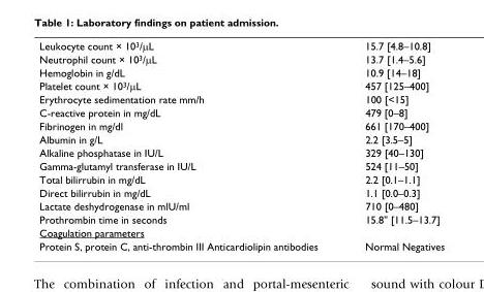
<table><tbody><tr><td>Leukocyte count × 10<sup>3</sup>/μL</td><td>15.7 [4.8–10.8]</td></tr><tr><td>Neutrophil count × 10<sup>3</sup>/μL</td><td>13.7 [1.4–5.6]</td></tr><tr><td>Hemoglobin in g/dL</td><td>10.9 [14–18]</td></tr><tr><td>Platelet count × 10<sup>3</sup>/μL</td><td>457 [125–400]</td></tr><tr><td>Erythrocyte sedimentation rate mm/h</td><td>100 [&lt;15]</td></tr><tr><td>C-reactive protein in mg/dL</td><td>479 [0–8]</td></tr><tr><td>Fibrinogen in mg/dl</td><td>661 [170–400]</td></tr><tr><td>Albumin in g/L</td><td>2.2 [3.5–5]</td></tr><tr><td>Alkaline phosphatase in IU/L</td><td>329 [40–130]</td></tr><tr><td>Gamma-glutamyl transferase in IU/L</td><td>524 [11–50]</td></tr><tr><td>Total bilirrubin in mg/dL</td><td>2.2 [0.1–1.1]</td></tr><tr><td>Direct bilirrubin in mg/dL</td><td>1.1 [0.0–0.3]</td></tr><tr><td>Lactate deshydrogenase in mlU/ml</td><td>710 [0–480]</td></tr><tr><td>Prothrombin time in seconds</td><td>15.8&quot; [11.5–13.7]</td></tr><tr><td colspan="2">Coagulation parameters</td></tr><tr><td>Protein S, protein C, anti-thrombin III Anticardiolipin antibodies</td><td>Normal Negatives</td></tr></tbody></table>